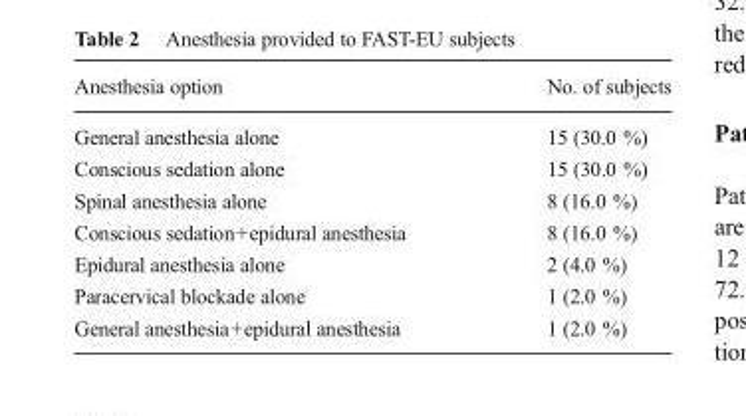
<table><thead><tr><td>Anesthesia option</td><td>No. of subjects</td></tr></thead><tbody><tr><td>General anesthesia alone</td><td>15 (30.0 %)</td></tr><tr><td>Conscious sedation alone</td><td>15 (30.0 %)</td></tr><tr><td>Spinal anesthesia alone</td><td>8 (16.0 %)</td></tr><tr><td>Conscious sedation+epidural anesthesia</td><td>8 (16.0 %)</td></tr><tr><td>Epidural anesthesia alone</td><td>2 (4.0 %)</td></tr><tr><td>Paracervical blockade alone</td><td>1 (2.0 %)</td></tr><tr><td>General anesthesia+epidural anesthesia</td><td>1 (2.0 %)</td></tr></tbody></table>